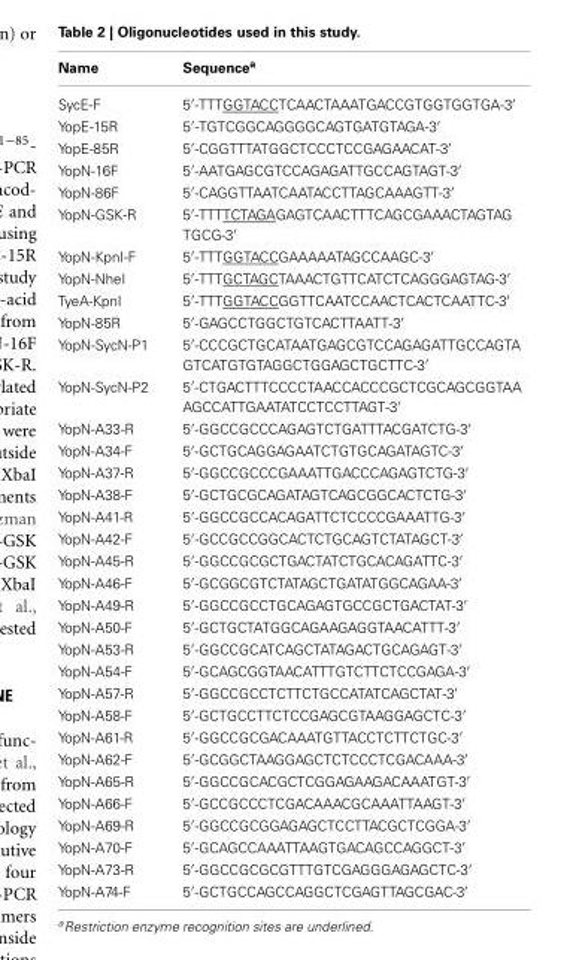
<table><thead><tr><td>Name</td><td>Sequence<sup>a</sup></td></tr></thead><tbody><tr><td>SycE-F</td><td>5′-TTTGGTACCTCAACTAAATGACCGTGGTGGTGA-3′</td></tr><tr><td>YopE-15R</td><td>5′-TGTCGGCAGGGGCAGTGATGTAGA-3′</td></tr><tr><td>YopE-85R</td><td>5′-CGGTTTATGGCTCCCTCCGAGAACAT-3′</td></tr><tr><td>YopN-16F</td><td>5′-AATGAGCGTCCAGAGATTGCCAGTAGT-3′</td></tr><tr><td>YopN-86F</td><td>5′-CAGGTTAATCAATACCTTAGCAAAGTT-3′</td></tr><tr><td>YopN-GSK-R</td><td>5′-TTTTCTAGAGAGTCAACTTTCAGCGAAACTAGTAG TGCG-3′</td></tr><tr><td>YopN-KpnI-F</td><td>5′-TTTGGTACCGAAAAATAGCCAAGC-3′</td></tr><tr><td>YopN-NheI</td><td>5′-TTTGCTAGCTAAACTGTTCATCTCAGGGAGTAG-3′</td></tr><tr><td>TyeA-KpnI</td><td>5′-TTTGGTACCGGTTCAATCCAACTCACTCAATTC-3′</td></tr><tr><td>YopN-85R</td><td>5′-GAGCCTGGCTGTCACTTAATT-3′</td></tr><tr><td>YopN-SycN-P1</td><td>5′-CCCGCTGCATAATGAGCGTCCAGAGATTGCCAGTA GTCATGTGTAGGCTGGAGCTGCTTC-3′</td></tr><tr><td>YopN-SycN-P2</td><td>5′-CTGACTTTCCCCTAACCACCCGCTCGCAGCGGTAA AGCCATTGAATATCCTCCTTAGT-3′</td></tr><tr><td>YopN-A33-R</td><td>5′-GGCCGCCCAGAGTCTGATTTACGATCTG-3′</td></tr><tr><td>YopN-A34-F</td><td>5′-GCTGCAGGAGAATCTGTGCAGATAGTC-3′</td></tr><tr><td>YopN-A37-R</td><td>5′-GGCCGCCCGAAATTGACCCAGAGTCTG-3′</td></tr><tr><td>YopN-A38-F</td><td>5′-GCTGCGCAGATAGTCAGCGGCACTCTG-3′</td></tr><tr><td>YopN-A41-R</td><td>5′-GGCCGCCACAGATTCTCCCCGAAATTG-3′</td></tr><tr><td>YopN-A42-F</td><td>5′-GCCGCCGGCACTCTGCAGTCTATAGCT-3′</td></tr><tr><td>YopN-A45-R</td><td>5′-GGCCGCGCTGACTATCTGCACAGATTC-3′</td></tr><tr><td>YopN-A46-F</td><td>5′-GCGGCGTCTATAGCTGATATGGCAGAA-3′</td></tr><tr><td>YopN-A49-R</td><td>5′-GGCCGCCTGCAGAGTGCCGCTGACTAT-3′</td></tr><tr><td>YopN-A50-F</td><td>5′-GCTGCTATGGCAGAAGAGGTAACATTT-3′</td></tr><tr><td>YopN-A53-R</td><td>5′-GGCCGCATCAGCTATAGACTGCAGAGT-3′</td></tr><tr><td>YopN-A54-F</td><td>5′-GCAGCGGTAACATTTGTCTTCTCCGAGA-3′</td></tr><tr><td>YopN-A57-R</td><td>5′-GGCCGCCTCTTCTGCCATATCAGCTAT-3′</td></tr><tr><td>YopN-A58-F</td><td>5′-GCTGCCTTCTCCGAGCGTAAGGAGCTC-3′</td></tr><tr><td>YopN-A61-R</td><td>5′-GGCCGCGACAAATGTTACCTCTTCTGC-3′</td></tr><tr><td>YopN-A62-F</td><td>5′-GCGGCTAAGGAGCTCTCCCTCGACAAA-3′</td></tr><tr><td>YopN-A65-R</td><td>5′-GGCCGCACGCTCGGAGAAGACAAATGT-3′</td></tr><tr><td>YopN-A66-F</td><td>5′-GCCGCCCTCGACAAACGCAAATTAAGT-3′</td></tr><tr><td>YopN-A69-R</td><td>5′-GGCCGCGGAGAGCTCCTTACGCTCGGA-3′</td></tr><tr><td>YopN-A70-F</td><td>5′-GCAGCCAAATTAAGTGACAGCCAGGCT-3′</td></tr><tr><td>YopN-A73-R</td><td>5′-GGCCGCGCGTTTGTCGAGGGAGAGCTC-3′</td></tr><tr><td>YopN-A74-F</td><td>5′-GCTGCCAGCCAGGCTCGAGTTAGCGAC-3′</td></tr></tbody></table>